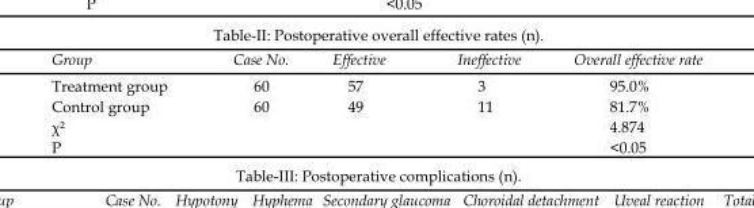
<table><thead><tr><td>Group</td><td>Case No.</td><td>Effective</td><td>Ineffective</td><td>Overall effective rate</td></tr></thead><tbody><tr><td>Treatment group</td><td>60</td><td>57</td><td>3</td><td>95.0%</td></tr><tr><td>Control group</td><td>60</td><td>49</td><td>11</td><td>81.7%</td></tr><tr><td>χ²</td><td></td><td></td><td></td><td>4.874</td></tr><tr><td>P</td><td></td><td></td><td></td><td>&lt;0.05</td></tr></tbody></table>